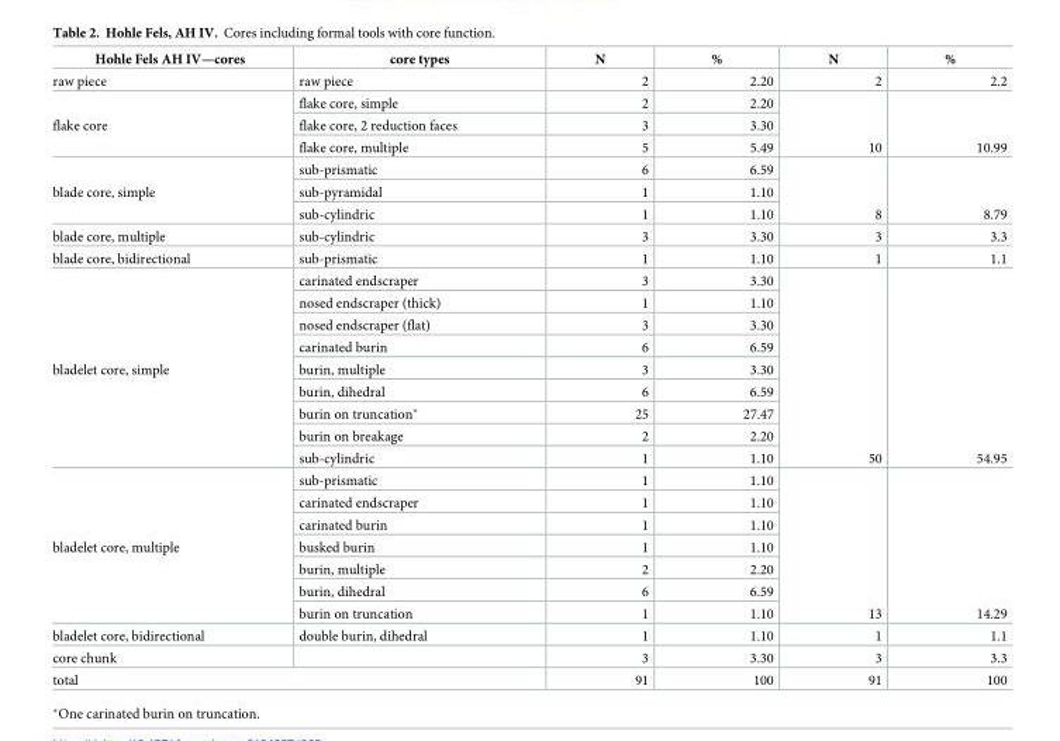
<table><thead><tr><td>Hohle Fels AH IV—cores</td><td>core types</td><td>N</td><td>%</td><td>N</td><td>%</td></tr></thead><tbody><tr><td>raw piece</td><td>raw piece</td><td>2</td><td>2.20</td><td>2</td><td>2.2</td></tr><tr><td rowspan="3">flake core</td><td>flake core, simple</td><td>2</td><td>2.20</td><td rowspan="3">10</td><td rowspan="3">10.99</td></tr><tr><td>flake core, 2 reduction faces</td><td>3</td><td>3.30</td></tr><tr><td>flake core, multiple</td><td>5</td><td>5.49</td></tr><tr><td rowspan="3">blade core, simple</td><td>sub-prismatic</td><td>6</td><td>6.59</td><td rowspan="3">8</td><td rowspan="3">8.79</td></tr><tr><td>sub-pyramidal</td><td>1</td><td>1.10</td></tr><tr><td>sub-cylindric</td><td>1</td><td>1.10</td></tr><tr><td>blade core, multiple</td><td>sub-cylindric</td><td>3</td><td>3.30</td><td>3</td><td>3.3</td></tr><tr><td>blade core, bidirectional</td><td>sub-prismatic</td><td>1</td><td>1.10</td><td>1</td><td>1.1</td></tr><tr><td rowspan="9">bladelet core, simple</td><td>carinated endscraper</td><td>3</td><td>3.30</td><td rowspan="9">50</td><td rowspan="9">54.95</td></tr><tr><td>nosed endscraper (thick)</td><td>1</td><td>1.10</td></tr><tr><td>nosed endscraper (flat)</td><td>3</td><td>3.30</td></tr><tr><td>carinated burin</td><td>6</td><td>6.59</td></tr><tr><td>burin, multiple</td><td>3</td><td>3.30</td></tr><tr><td>burin, dihedral</td><td>6</td><td>6.59</td></tr><tr><td>burin on truncation*</td><td>25</td><td>27.47</td></tr><tr><td>burin on breakage</td><td>2</td><td>2.20</td></tr><tr><td>sub-cylindric</td><td>1</td><td>1.10</td></tr><tr><td rowspan="7">bladelet core, multiple</td><td>sub-prismatic</td><td>1</td><td>1.10</td><td rowspan="7">13</td><td rowspan="7">14.29</td></tr><tr><td>carinated endscraper</td><td>1</td><td>1.10</td></tr><tr><td>carinated burin</td><td>1</td><td>1.10</td></tr><tr><td>busked burin</td><td>1</td><td>1.10</td></tr><tr><td>burin, multiple</td><td>2</td><td>2.20</td></tr><tr><td>burin, dihedral</td><td>6</td><td>6.59</td></tr><tr><td>burin on truncation</td><td>1</td><td>1.10</td></tr><tr><td>bladelet core, bidirectional</td><td>double burin, dihedral</td><td>1</td><td>1.10</td><td>1</td><td>1.1</td></tr><tr><td>core chunk</td><td></td><td>3</td><td>3.30</td><td>3</td><td>3.3</td></tr><tr><td colspan="2">total</td><td>91</td><td>100</td><td>91</td><td>100</td></tr></tbody></table>